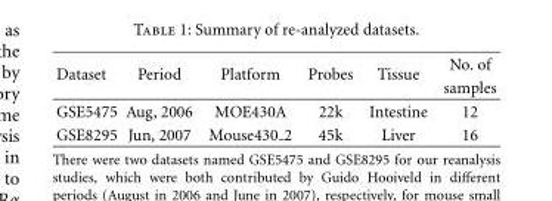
<table><thead><tr><td rowspan="2">Dataset</td><td rowspan="2">Period</td><td rowspan="2">Platform</td><td rowspan="2">Probes</td><td rowspan="2">Tissue</td><td rowspan="2">No. of samples</td></tr><tr></tr></thead><tbody><tr><td>GSE5475</td><td>Aug, 2006</td><td>MOE430A</td><td>22k</td><td>Intestine</td><td>12</td></tr><tr><td>GSE8295</td><td>Jun, 2007</td><td>Mouse430 2</td><td>45k</td><td>Liver</td><td>16</td></tr></tbody></table>